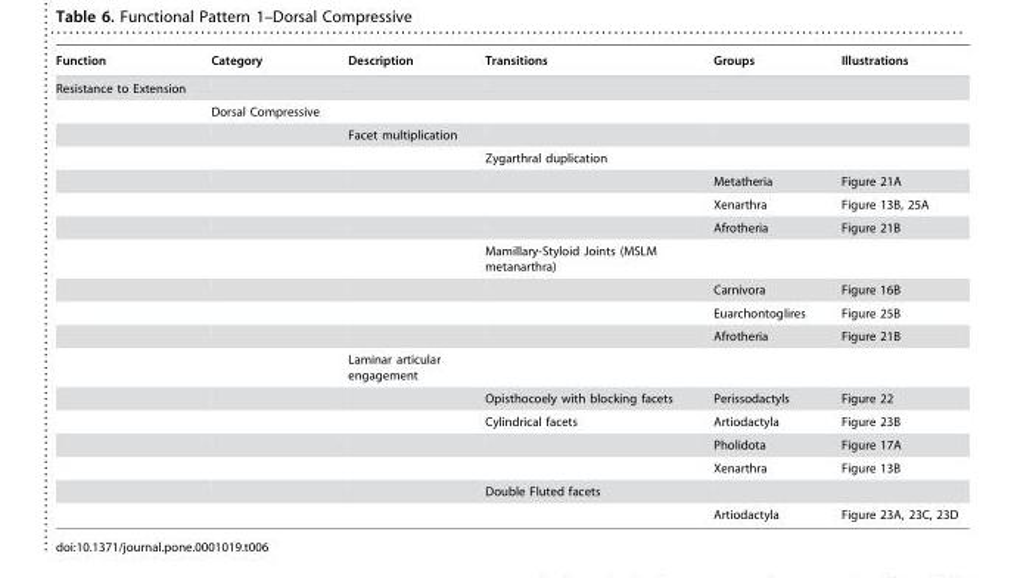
<table><thead><tr><td>Function</td><td>Category</td><td>Description</td><td>Transitions</td><td>Groups</td><td>Illustrations</td></tr></thead><tbody><tr><td colspan="6">Resistance to Extension</td></tr><tr><td></td><td>Dorsal Compressive</td><td></td><td></td><td></td><td></td></tr><tr><td></td><td></td><td>Facet multiplication</td><td></td><td></td><td></td></tr><tr><td></td><td></td><td></td><td>Zygarthral duplication</td><td></td><td></td></tr><tr><td></td><td></td><td></td><td></td><td>Metatheria</td><td>Figure 21A</td></tr><tr><td></td><td></td><td></td><td></td><td>Xenarthra</td><td>Figure 13B, 25A</td></tr><tr><td></td><td></td><td></td><td></td><td>Afrotheria</td><td>Figure 21B</td></tr><tr><td></td><td></td><td></td><td>Mamillary-Styloid Joints (MSLM metanarthra)</td><td></td><td></td></tr><tr><td></td><td></td><td></td><td></td><td>Carnivora</td><td>Figure 16B</td></tr><tr><td></td><td></td><td></td><td></td><td>Euarchontoglires</td><td>Figure 25B</td></tr><tr><td></td><td></td><td></td><td></td><td>Afrotheria</td><td>Figure 21B</td></tr><tr><td></td><td></td><td>Laminar articular engagement</td><td></td><td></td><td></td></tr><tr><td></td><td></td><td></td><td>Opisthocoely with blocking facets</td><td>Perissodactyls</td><td>Figure 22</td></tr><tr><td></td><td></td><td></td><td>Cylindrical facets</td><td>Artiodactyla</td><td>Figure 23B</td></tr><tr><td></td><td></td><td></td><td></td><td>Pholidota</td><td>Figure 17A</td></tr><tr><td></td><td></td><td></td><td></td><td>Xenarthra</td><td>Figure 13B</td></tr><tr><td></td><td></td><td></td><td>Double Fluted facets</td><td></td><td></td></tr><tr><td></td><td></td><td></td><td></td><td>Artiodactyla</td><td>Figure 23A, 23C, 23D</td></tr></tbody></table>